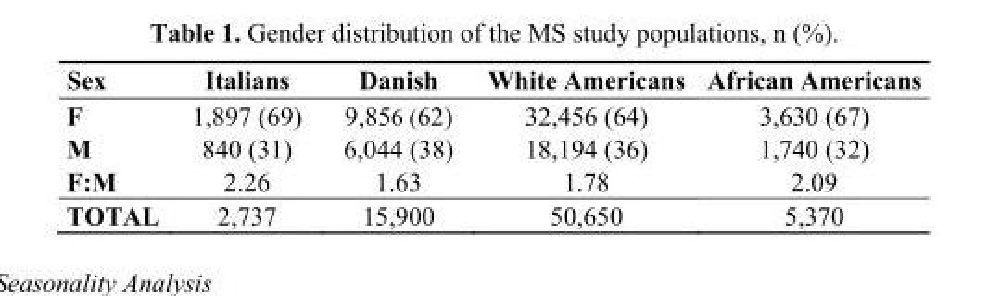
<table><thead><tr><td>Sex</td><td>Italians</td><td>Danish</td><td>White Americans</td><td>African Americans</td></tr></thead><tbody><tr><td>F</td><td>1,897 (69)</td><td>9,856 (62)</td><td>32,456 (64)</td><td>3,630 (67)</td></tr><tr><td>M</td><td>840 (31)</td><td>6,044 (38)</td><td>18,194 (36)</td><td>1,740 (32)</td></tr><tr><td>F:M</td><td>2.26</td><td>1.63</td><td>1.78</td><td>2.09</td></tr><tr><td>TOTAL</td><td>2,737</td><td>15,900</td><td>50,650</td><td>5,370</td></tr></tbody></table>